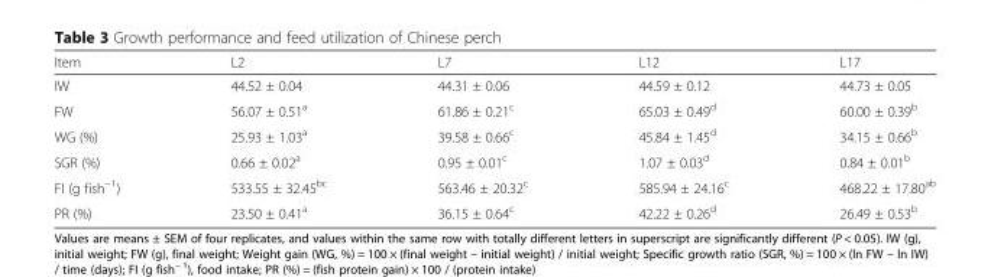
<table><thead><tr><td>Item</td><td>L2</td><td>L7</td><td>L12</td><td>L17</td></tr></thead><tbody><tr><td>IW</td><td>44.52 ± 0.04</td><td>44.31 ± 0.06</td><td>44.59 ± 0.12</td><td>44.73 ± 0.05</td></tr><tr><td>FW</td><td>56.07 ± 0.51<sup>a</sup></td><td>61.86 ± 0.21<sup>c</sup></td><td>65.03 ± 0.49<sup>d</sup></td><td>60.00 ± 0.39<sup>b</sup></td></tr><tr><td>WG (%)</td><td>25.93 ± 1.03<sup>a</sup></td><td>39.58 ± 0.66<sup>c</sup></td><td>45.84 ± 1.45<sup>d</sup></td><td>34.15 ± 0.66<sup>b</sup></td></tr><tr><td>SGR (%)</td><td>0.66 ± 0.02<sup>a</sup></td><td>0.95 ± 0.01<sup>c</sup></td><td>1.07 ± 0.03<sup>d</sup></td><td>0.84 ± 0.01<sup>b</sup></td></tr><tr><td>FI (g fish<sup>−1</sup>)</td><td>533.55 ± 32.45<sup>bc</sup></td><td>563.46 ± 20.32<sup>c</sup></td><td>585.94 ± 24.16<sup>c</sup></td><td>468.22 ± 17.80<sup>ab</sup></td></tr><tr><td>PR (%)</td><td>23.50 ± 0.41<sup>a</sup></td><td>36.15 ± 0.64<sup>c</sup></td><td>42.22 ± 0.26<sup>d</sup></td><td>26.49 ± 0.53<sup>b</sup></td></tr></tbody></table>